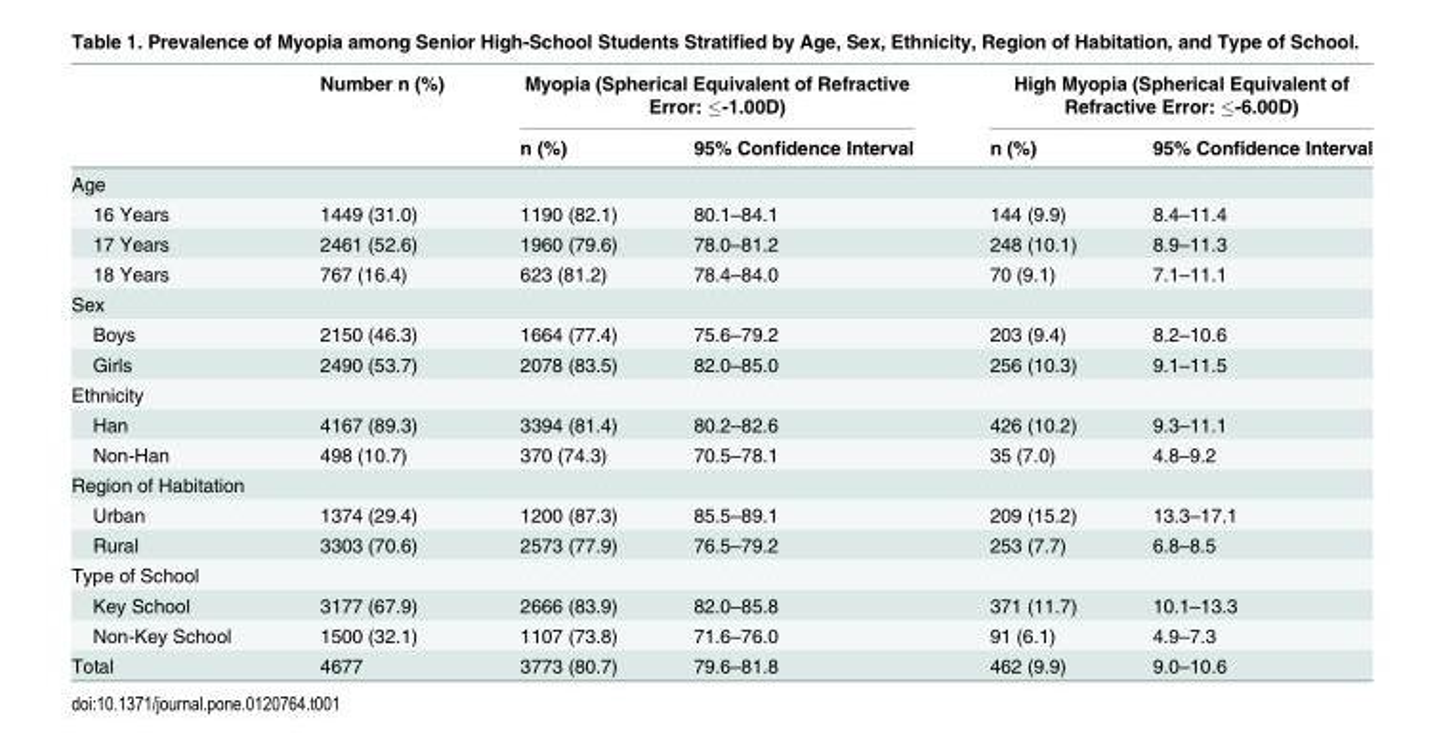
<table><thead><tr><td rowspan="2"></td><td rowspan="2">Number n (%)</td><td colspan="2">Myopia (Spherical Equivalent of Refractive Error: ≤-1.00D)</td><td colspan="2">High Myopia (Spherical Equivalent of Refractive Error: ≤-6.00D)</td></tr><tr><td>n (%)</td><td>95% Confidence Interval</td><td>n (%)</td><td>95% Confidence Interval</td></tr></thead><tbody><tr><td colspan="6">Age</td></tr><tr><td>16 Years</td><td>1449 (31.0)</td><td>1190 (82.1)</td><td>80.1–84.1</td><td>144 (9.9)</td><td>8.4–11.4</td></tr><tr><td>17 Years</td><td>2461 (52.6)</td><td>1960 (79.6)</td><td>78.0–81.2</td><td>248 (10.1)</td><td>8.9–11.3</td></tr><tr><td>18 Years</td><td>767 (16.4)</td><td>623 (81.2)</td><td>78.4–84.0</td><td>70 (9.1)</td><td>7.1–11.1</td></tr><tr><td colspan="6">Sex</td></tr><tr><td>Boys</td><td>2150 (46.3)</td><td>1664 (77.4)</td><td>75.6–79.2</td><td>203 (9.4)</td><td>8.2–10.6</td></tr><tr><td>Girls</td><td>2490 (53.7)</td><td>2078 (83.5)</td><td>82.0–85.0</td><td>256 (10.3)</td><td>9.1–11.5</td></tr><tr><td colspan="6">Ethnicity</td></tr><tr><td>Han</td><td>4167 (89.3)</td><td>3394 (81.4)</td><td>80.2–82.6</td><td>426 (10.2)</td><td>9.3–11.1</td></tr><tr><td>Non-Han</td><td>498 (10.7)</td><td>370 (74.3)</td><td>70.5–78.1</td><td>35 (7.0)</td><td>4.8–9.2</td></tr><tr><td colspan="6">Region of Habitation</td></tr><tr><td>Urban</td><td>1374 (29.4)</td><td>1200 (87.3)</td><td>85.5–89.1</td><td>209 (15.2)</td><td>13.3–17.1</td></tr><tr><td>Rural</td><td>3303 (70.6)</td><td>2573 (77.9)</td><td>76.5–79.2</td><td>253 (7.7)</td><td>6.8–8.5</td></tr><tr><td colspan="6">Type of School</td></tr><tr><td>Key School</td><td>3177 (67.9)</td><td>2666 (83.9)</td><td>82.0–85.8</td><td>371 (11.7)</td><td>10.1–13.3</td></tr><tr><td>Non-Key School</td><td>1500 (32.1)</td><td>1107 (73.8)</td><td>71.6–76.0</td><td>91 (6.1)</td><td>4.9–7.3</td></tr><tr><td>Total</td><td>4677</td><td>3773 (80.7)</td><td>79.6–81.8</td><td>462 (9.9)</td><td>9.0–10.6</td></tr></tbody></table>